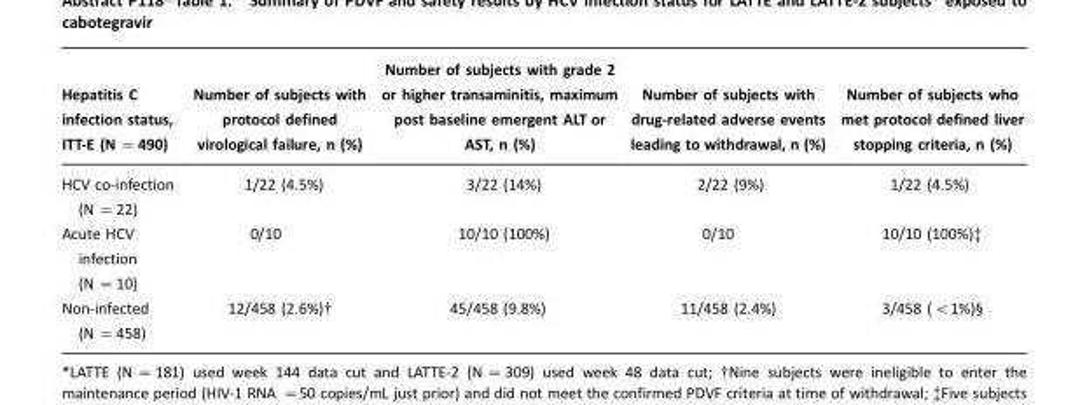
<table><thead><tr><td>Hepatitis C infection status, ITT-E (N =490)</td><td>Number of subjects with protocol defined virological failure, n (%)</td><td>Number of subjects with grade 2 or higher transaminitis, maximum post baseline emergent ALT or AST, n (%)</td><td>Number of subjects with drug-related adverse events leading to withdrawal, n (%)</td><td>Number of subjects who met protocol defined liver stopping criteria, n (%)</td></tr></thead><tbody><tr><td>HCV co-infection (N =22)</td><td>1/22 (4.5%)</td><td>3/22 (14%)</td><td>2/22 (9%)</td><td>1/22 (4.5%)</td></tr><tr><td>Acute HCV infection (N =10)</td><td>0/10</td><td>10/10 (100%)</td><td>0/10</td><td>10/10 (100%)‡</td></tr><tr><td>Non-infected (N =458)</td><td>12/458 (2.6%)†</td><td>45/458 (9.8%)</td><td>11/458 (2.4%)</td><td>3/458 (&lt;1%)§</td></tr></tbody></table>